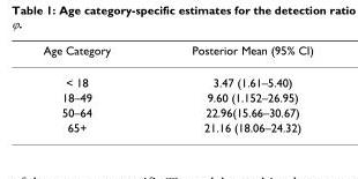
<table><thead><tr><td>Age Category</td><td>Posterior Mean (95% CI)</td></tr></thead><tbody><tr><td>&lt; 18</td><td>3.47 (1.61–5.40)</td></tr><tr><td>18–49</td><td>9.60 (1.152–26.95)</td></tr><tr><td>50–64</td><td>22.96(15.66–30.67)</td></tr><tr><td>65+</td><td>21.16 (18.06–24.32)</td></tr></tbody></table>